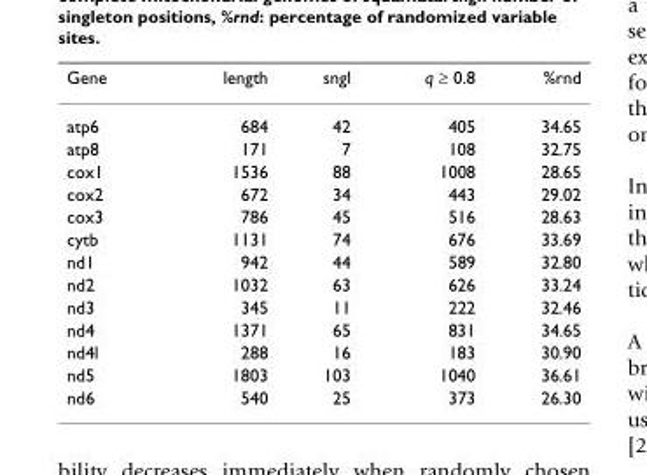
<table><thead><tr><td>Gene</td><td>length</td><td>sngl</td><td>q ≥ 0.8</td><td>%rnd</td></tr></thead><tbody><tr><td>atp6</td><td>684</td><td>42</td><td>405</td><td>34.65</td></tr><tr><td>atp8</td><td>171</td><td>7</td><td>108</td><td>32.75</td></tr><tr><td>cox1</td><td>1536</td><td>88</td><td>1008</td><td>28.65</td></tr><tr><td>cox2</td><td>672</td><td>34</td><td>443</td><td>29.02</td></tr><tr><td>cox3</td><td>786</td><td>45</td><td>516</td><td>28.63</td></tr><tr><td>cytb</td><td>1131</td><td>74</td><td>676</td><td>33.69</td></tr><tr><td>nd1</td><td>942</td><td>44</td><td>589</td><td>32.80</td></tr><tr><td>nd2</td><td>1032</td><td>63</td><td>626</td><td>33.24</td></tr><tr><td>nd3</td><td>345</td><td>11</td><td>222</td><td>32.46</td></tr><tr><td>nd4</td><td>1371</td><td>65</td><td>831</td><td>34.65</td></tr><tr><td>nd4l</td><td>288</td><td>16</td><td>183</td><td>30.90</td></tr><tr><td>nd5</td><td>1803</td><td>103</td><td>1040</td><td>36.61</td></tr><tr><td>nd6</td><td>540</td><td>25</td><td>373</td><td>26.30</td></tr></tbody></table>